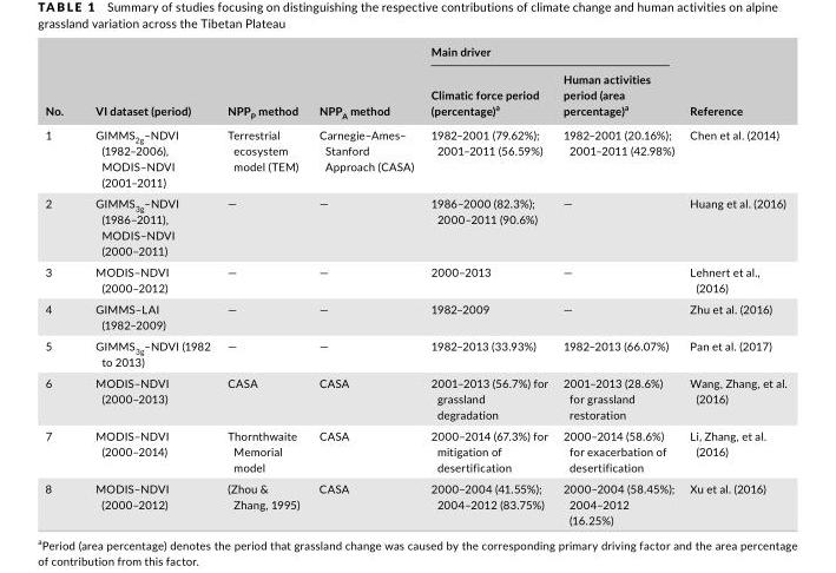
<table><thead><tr><td rowspan="2">No.</td><td rowspan="2">VI dataset (period)</td><td rowspan="2">NPP<sub>P</sub> method</td><td rowspan="2">NPP<sub>A</sub> method</td><td colspan="2">Main driver</td><td rowspan="2">Reference</td></tr><tr><td>Climatic force period (percentage)<sup>a</sup></td><td>Human activities period (area percentage)<sup>a</sup></td></tr></thead><tbody><tr><td>1</td><td>GIMMS<sub>2g</sub>–NDVI (1982–2006), MODIS–NDVI (2001–2011)</td><td>Terrestrial ecosystem model (TEM)</td><td>Carnegie–Ames– Stanford Approach (CASA)</td><td>1982–2001 (79.62%); 2001–2011 (56.59%)</td><td>1982–2001 (20.16%); 2001–2011 (42.98%)</td><td>Chen et al. (2014)</td></tr><tr><td>2</td><td>GIMMS<sub>3g</sub>–NDVI (1986–2011), MODIS–NDVI (2000–2011)</td><td>—</td><td>—</td><td>1986–2000 (82.3%); 2000–2011 (90.6%)</td><td>—</td><td>Huang et al. (2016)</td></tr><tr><td>3</td><td>MODIS–NDVI (2000–2012)</td><td>—</td><td>—</td><td>2000–2013</td><td>—</td><td>Lehnert et al., (2016)</td></tr><tr><td>4</td><td>GIMMS–LAI (1982–2009)</td><td>—</td><td>—</td><td>1982–2009</td><td>—</td><td>Zhu et al. (2016)</td></tr><tr><td>5</td><td>GIMMS<sub>3g</sub>–NDVI (1982 to 2013)</td><td>—</td><td>—</td><td>1982–2013 (33.93%)</td><td>1982–2013 (66.07%)</td><td>Pan et al. (2017)</td></tr><tr><td>6</td><td>MODIS–NDVI (2000–2013)</td><td>CASA</td><td>CASA</td><td>2001–2013 (56.7%) for grassland degradation</td><td>2001–2013 (28.6%) for grassland restoration</td><td>Wang, Zhang, et al. (2016)</td></tr><tr><td>7</td><td>MODIS–NDVI (2000–2014)</td><td>Thornthwaite Memorial model</td><td>CASA</td><td>2000–2014 (67.3%) for mitigation of desertification</td><td>2000–2014 (58.6%) for exacerbation of desertification</td><td>Li, Zhang, et al. (2016)</td></tr><tr><td>8</td><td>MODIS–NDVI (2000–2012)</td><td>(Zhou &amp; Zhang, 1995)</td><td>CASA</td><td>2000–2004 (41.55%); 2004–2012 (83.75%)</td><td>2000–2004 (58.45%); 2004–2012 (16.25%)</td><td>Xu et al. (2016)</td></tr></tbody></table>